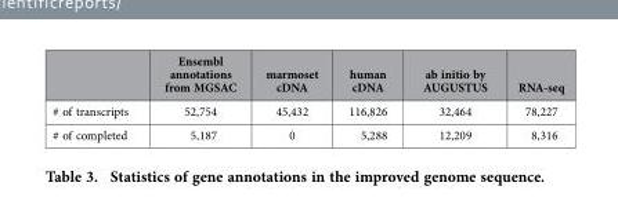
<table><thead><tr><td></td><td>Ensembl annotations from MGSAC</td><td>marmoset cDNA</td><td>human cDNA</td><td>ab initio by AUGUSTUS</td><td>RNA-seq</td></tr></thead><tbody><tr><td># of transcripts</td><td>52,754</td><td>45,432</td><td>116,826</td><td>32,464</td><td>78,227</td></tr><tr><td># of completed</td><td>5,187</td><td>0</td><td>5,288</td><td>12,209</td><td>8,316</td></tr></tbody></table>